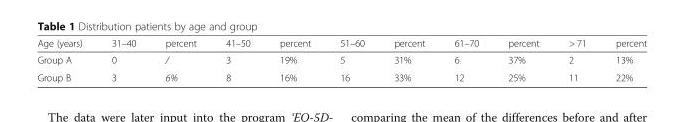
<table><thead><tr><td>Age (years)</td><td>31–40</td><td>percent</td><td>41–50</td><td>percent</td><td>51–60</td><td>percent</td><td>61–70</td><td>percent</td><td>&gt; 71</td><td>percent</td></tr></thead><tbody><tr><td>Group A</td><td>0</td><td>/</td><td>3</td><td>19%</td><td>5</td><td>31%</td><td>6</td><td>37%</td><td>2</td><td>13%</td></tr><tr><td>Group B</td><td>3</td><td>6%</td><td>8</td><td>16%</td><td>16</td><td>33%</td><td>12</td><td>25%</td><td>11</td><td>22%</td></tr></tbody></table>